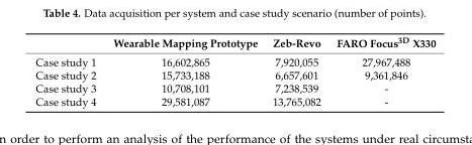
<table><thead><tr><td></td><td>Wearable Mapping Prototype</td><td>Zeb-Revo</td><td>FARO Focus<sup>3D</sup> X330</td></tr></thead><tbody><tr><td>Case study 1</td><td>16,602,865</td><td>7,920,055</td><td>27,967,488</td></tr><tr><td>Case study 2</td><td>15,733,188</td><td>6,657,601</td><td>9,361,846</td></tr><tr><td>Case study 3</td><td>10,708,101</td><td>7,238,539</td><td>-</td></tr><tr><td>Case study 4</td><td>29,581,087</td><td>13,765,082</td><td>-</td></tr></tbody></table>